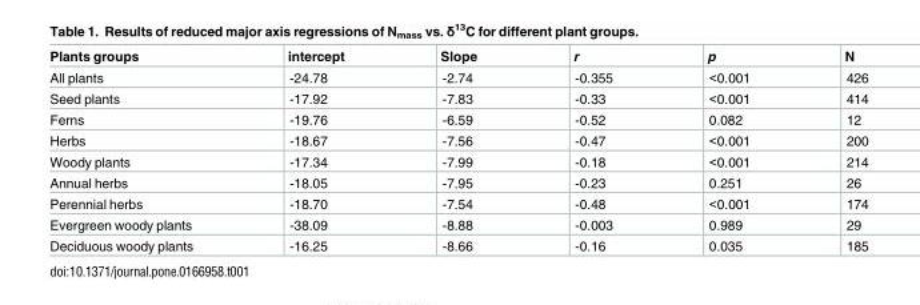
<table><thead><tr><td>Plants groups</td><td>intercept</td><td>Slope</td><td>r</td><td>p</td><td>N</td></tr></thead><tbody><tr><td>All plants</td><td>-24.78</td><td>-2.74</td><td>-0.355</td><td>&lt;0.001</td><td>426</td></tr><tr><td>Seed plants</td><td>-17.92</td><td>-7.83</td><td>-0.33</td><td>&lt;0.001</td><td>414</td></tr><tr><td>Ferns</td><td>-19.76</td><td>-6.59</td><td>-0.52</td><td>0.082</td><td>12</td></tr><tr><td>Herbs</td><td>-18.67</td><td>-7.56</td><td>-0.47</td><td>&lt;0.001</td><td>200</td></tr><tr><td>Woody plants</td><td>-17.34</td><td>-7.99</td><td>-0.18</td><td>&lt;0.001</td><td>214</td></tr><tr><td>Annual herbs</td><td>-18.05</td><td>-7.95</td><td>-0.23</td><td>0.251</td><td>26</td></tr><tr><td>Perennial herbs</td><td>-18.70</td><td>-7.54</td><td>-0.48</td><td>&lt;0.001</td><td>174</td></tr><tr><td>Evergreen woody plants</td><td>-38.09</td><td>-8.88</td><td>-0.003</td><td>0.989</td><td>29</td></tr><tr><td>Deciduous woody plants</td><td>-16.25</td><td>-8.66</td><td>-0.16</td><td>0.035</td><td>185</td></tr></tbody></table>